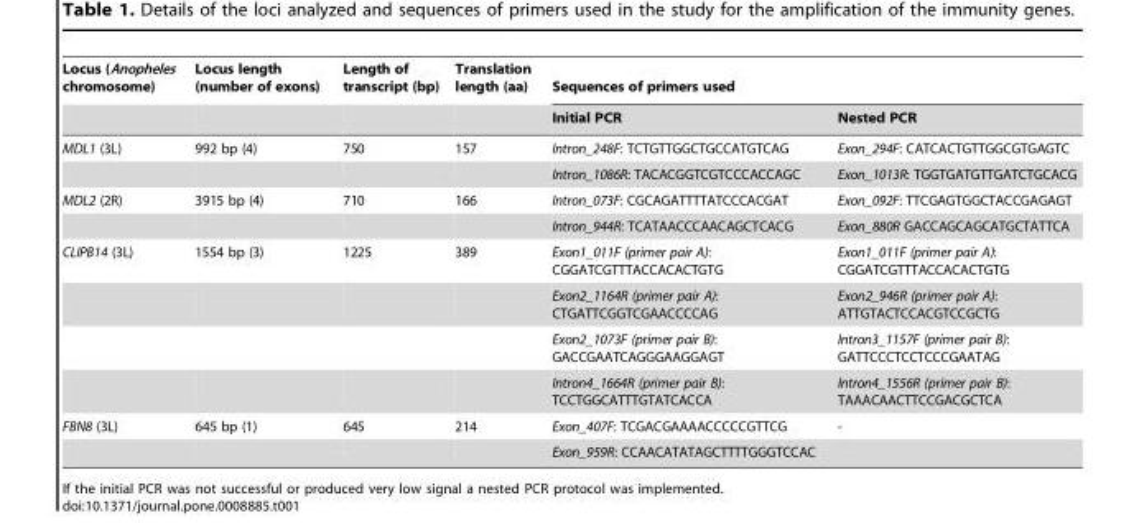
<table><thead><tr><td rowspan="2">Locus (Anopheles chromosome)</td><td rowspan="2">Locus length (number of exons)</td><td rowspan="2">Length of transcript (bp)</td><td rowspan="2">Translation length (aa)</td><td colspan="2">Sequences of primers used</td></tr><tr><td>Initial PCR</td><td>Nested PCR</td></tr></thead><tbody><tr><td rowspan="2">MDL1 (3L)</td><td>992 bp (4)</td><td>750</td><td>157</td><td>Intron_248F: TCTGTTGGCTGCCATGTCAG</td><td>Exon_294F: CATCACTGTTGGCGTGAGTC</td></tr><tr><td></td><td></td><td></td><td>Intron_1086R: TACACGGTCGTCCCACCAGC</td><td>Exon_1013R: TGGTGATGTTGATCTGCACG</td></tr><tr><td rowspan="2">MDL2 (2R)</td><td>3915 bp (4)</td><td>710</td><td>166</td><td>Intron_073F: CGCAGATTTTATCCCACGAT</td><td>Exon_092F: TTCGAGTGGCTACCGAGAGT</td></tr><tr><td></td><td></td><td></td><td>Intron_944R: TCATAACCCAACAGCTCACG</td><td>Exon_880R GACCAGCAGCATGCTATTCA</td></tr><tr><td rowspan="4">CLIPB14 (3L)</td><td>1554 bp (3)</td><td>1225</td><td>389</td><td>Exon1_011F (primer pair A): CGGATCGTTTACCACACTGTG</td><td>Exon1_011F (primer pair A): CGGATCGTTTACCACACTGTG</td></tr><tr><td></td><td></td><td></td><td>Exon2_1164R (primer pair A): CTGATTCGGTCGAACCCCAG</td><td>Exon2_946R (primer pair A): ATTGTACTCCACGTCCGCTG</td></tr><tr><td></td><td></td><td></td><td>Exon2_1073F (primer pair B): GACCGAATCAGGGAAGGAGT</td><td>Intron3_1157F (primer pair B): GATTCCCTCCTCCCGAATAG</td></tr><tr><td></td><td></td><td></td><td>Intron4_1664R (primer pair B): TCCTGGCATTTGTATCACCA</td><td>Intron4_1556R (primer pair B): TAAACAACTTCCGACGCTCA</td></tr><tr><td rowspan="2">FBN8 (3L)</td><td>645 bp (1)</td><td>645</td><td>214</td><td>Exon_407F: TCGACGAAAACCCCCGTTCG</td><td>-</td></tr><tr><td></td><td></td><td></td><td>Exon_959R: CCAACATATAGCTTTTGGGTCCAC</td><td></td></tr></tbody></table>